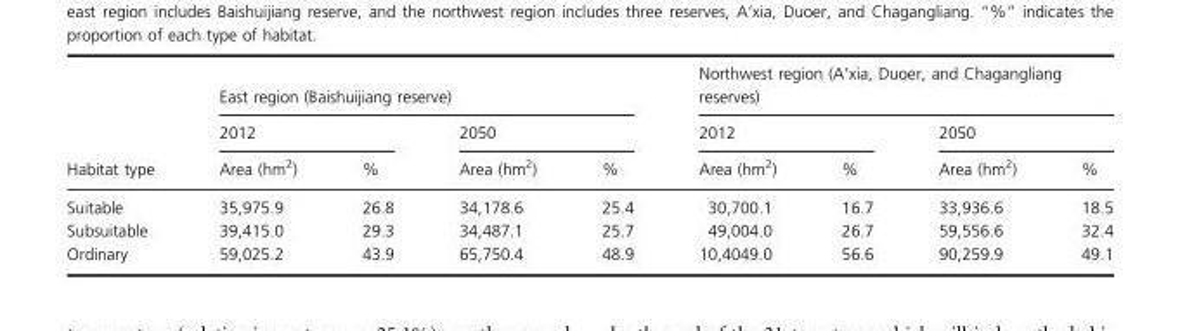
<table><thead><tr><td rowspan="3">Habitat type</td><td colspan="4">East region (Baishuijiang reserve)</td><td colspan="4">Northwest region (A’xia, Duoer, and Chagangliang reserves)</td></tr><tr><td colspan="2">2012</td><td colspan="2">2050</td><td colspan="2">2012</td><td colspan="2">2050</td></tr><tr><td>Area (hm<sup>2</sup>)</td><td>%</td><td>Area (hm<sup>2</sup>)</td><td>%</td><td>Area (hm<sup>2</sup>)</td><td>%</td><td>Area (hm<sup>2</sup>)</td><td>%</td></tr></thead><tbody><tr><td>Suitable</td><td>35,975.9</td><td>26.8</td><td>34,178.6</td><td>25.4</td><td>30,700.1</td><td>16.7</td><td>33,936.6</td><td>18.5</td></tr><tr><td>Subsuitable</td><td>39,415.0</td><td>29.3</td><td>34,487.1</td><td>25.7</td><td>49,004.0</td><td>26.7</td><td>59,556.6</td><td>32.4</td></tr><tr><td>Ordinary</td><td>59,025.2</td><td>43.9</td><td>65,750.4</td><td>48.9</td><td>10,4049.0</td><td>56.6</td><td>90,259.9</td><td>49.1</td></tr></tbody></table>